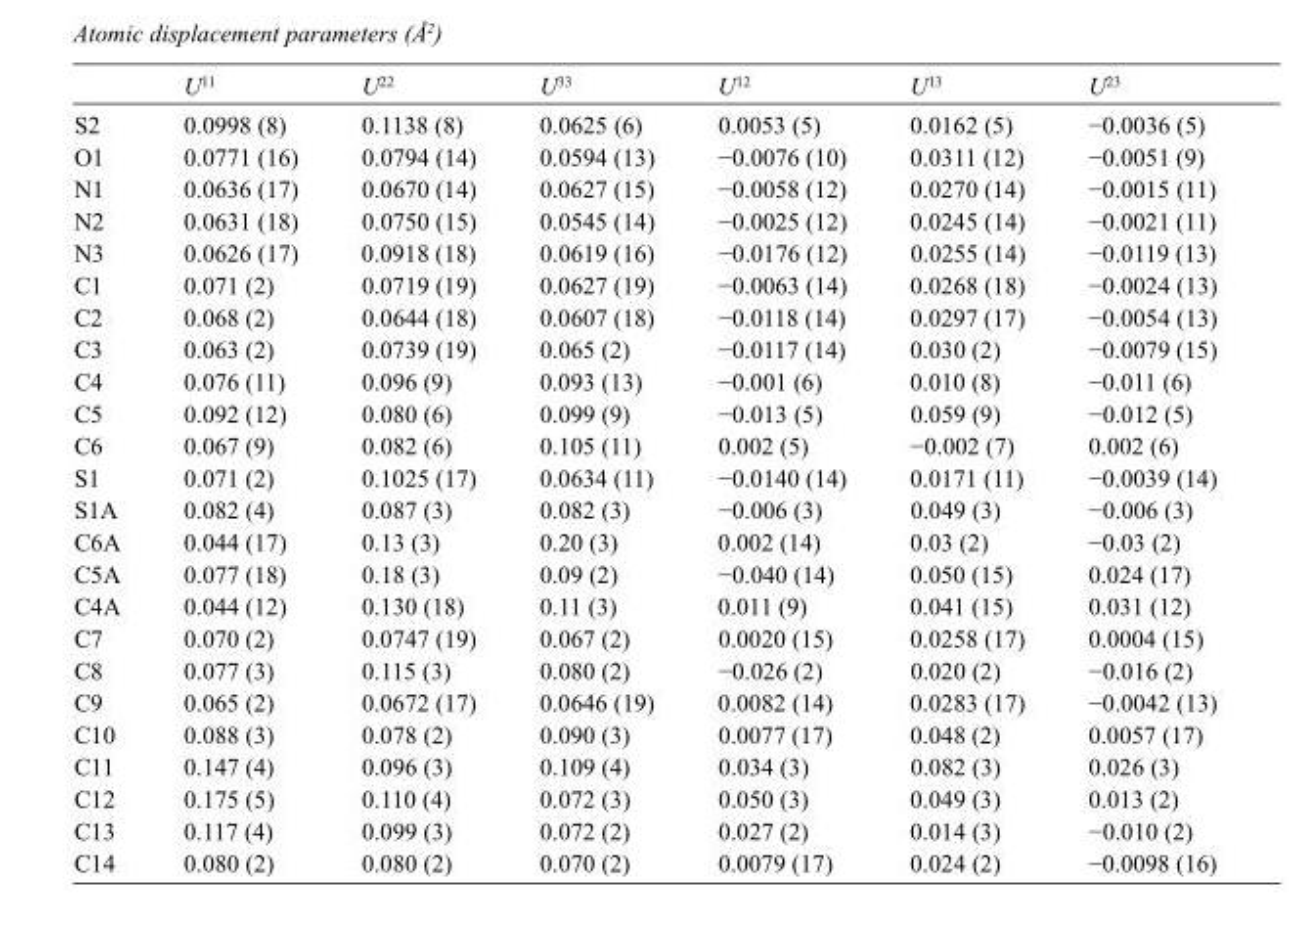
<table><thead><tr><td></td><td>U<sup>11</sup></td><td>U<sup>22</sup></td><td>U<sup>33</sup></td><td>U<sup>12</sup></td><td>U<sup>13</sup></td><td>U<sup>23</sup></td></tr></thead><tbody><tr><td>S2</td><td>0.0998 (8)</td><td>0.1138 (8)</td><td>0.0625 (6)</td><td>0.0053 (5)</td><td>0.0162 (5)</td><td>−0.0036 (5)</td></tr><tr><td>O1</td><td>0.0771 (16)</td><td>0.0794 (14)</td><td>0.0594 (13)</td><td>−0.0076 (10)</td><td>0.0311 (12)</td><td>−0.0051 (9)</td></tr><tr><td>N1</td><td>0.0636 (17)</td><td>0.0670 (14)</td><td>0.0627 (15)</td><td>−0.0058 (12)</td><td>0.0270 (14)</td><td>−0.0015 (11)</td></tr><tr><td>N2</td><td>0.0631 (18)</td><td>0.0750 (15)</td><td>0.0545 (14)</td><td>−0.0025 (12)</td><td>0.0245 (14)</td><td>−0.0021 (11)</td></tr><tr><td>N3</td><td>0.0626 (17)</td><td>0.0918 (18)</td><td>0.0619 (16)</td><td>−0.0176 (12)</td><td>0.0255 (14)</td><td>−0.0119 (13)</td></tr><tr><td>C1</td><td>0.071 (2)</td><td>0.0719 (19)</td><td>0.0627 (19)</td><td>−0.0063 (14)</td><td>0.0268 (18)</td><td>−0.0024 (13)</td></tr><tr><td>C2</td><td>0.068 (2)</td><td>0.0644 (18)</td><td>0.0607 (18)</td><td>−0.0118 (14)</td><td>0.0297 (17)</td><td>−0.0054 (13)</td></tr><tr><td>C3</td><td>0.063 (2)</td><td>0.0739 (19)</td><td>0.065 (2)</td><td>−0.0117 (14)</td><td>0.030 (2)</td><td>−0.0079 (15)</td></tr><tr><td>C4</td><td>0.076 (11)</td><td>0.096 (9)</td><td>0.093 (13)</td><td>−0.001 (6)</td><td>0.010 (8)</td><td>−0.011 (6)</td></tr><tr><td>C5</td><td>0.092 (12)</td><td>0.080 (6)</td><td>0.099 (9)</td><td>−0.013 (5)</td><td>0.059 (9)</td><td>−0.012 (5)</td></tr><tr><td>C6</td><td>0.067 (9)</td><td>0.082 (6)</td><td>0.105 (11)</td><td>0.002 (5)</td><td>−0.002 (7)</td><td>0.002 (6)</td></tr><tr><td>S1</td><td>0.071 (2)</td><td>0.1025 (17)</td><td>0.0634 (11)</td><td>−0.0140 (14)</td><td>0.0171 (11)</td><td>−0.0039 (14)</td></tr><tr><td>S1A</td><td>0.082 (4)</td><td>0.087 (3)</td><td>0.082 (3)</td><td>−0.006 (3)</td><td>0.049 (3)</td><td>−0.006 (3)</td></tr><tr><td>C6A</td><td>0.044 (17)</td><td>0.13 (3)</td><td>0.20 (3)</td><td>0.002 (14)</td><td>0.03 (2)</td><td>−0.03 (2)</td></tr><tr><td>C5A</td><td>0.077 (18)</td><td>0.18 (3)</td><td>0.09 (2)</td><td>−0.040 (14)</td><td>0.050 (15)</td><td>0.024 (17)</td></tr><tr><td>C4A</td><td>0.044 (12)</td><td>0.130 (18)</td><td>0.11 (3)</td><td>0.011 (9)</td><td>0.041 (15)</td><td>0.031 (12)</td></tr><tr><td>C7</td><td>0.070 (2)</td><td>0.0747 (19)</td><td>0.067 (2)</td><td>0.0020 (15)</td><td>0.0258 (17)</td><td>0.0004 (15)</td></tr><tr><td>C8</td><td>0.077 (3)</td><td>0.115 (3)</td><td>0.080 (2)</td><td>−0.026 (2)</td><td>0.020 (2)</td><td>−0.016 (2)</td></tr><tr><td>C9</td><td>0.065 (2)</td><td>0.0672 (17)</td><td>0.0646 (19)</td><td>0.0082 (14)</td><td>0.0283 (17)</td><td>−0.0042 (13)</td></tr><tr><td>C10</td><td>0.088 (3)</td><td>0.078 (2)</td><td>0.090 (3)</td><td>0.0077 (17)</td><td>0.048 (2)</td><td>0.0057 (17)</td></tr><tr><td>C11</td><td>0.147 (4)</td><td>0.096 (3)</td><td>0.109 (4)</td><td>0.034 (3)</td><td>0.082 (3)</td><td>0.026 (3)</td></tr><tr><td>C12</td><td>0.175 (5)</td><td>0.110 (4)</td><td>0.072 (3)</td><td>0.050 (3)</td><td>0.049 (3)</td><td>0.013 (2)</td></tr><tr><td>C13</td><td>0.117 (4)</td><td>0.099 (3)</td><td>0.072 (2)</td><td>0.027 (2)</td><td>0.014 (3)</td><td>−0.010 (2)</td></tr><tr><td>C14</td><td>0.080 (2)</td><td>0.080 (2)</td><td>0.070 (2)</td><td>0.0079 (17)</td><td>0.024 (2)</td><td>−0.0098 (16)</td></tr></tbody></table>